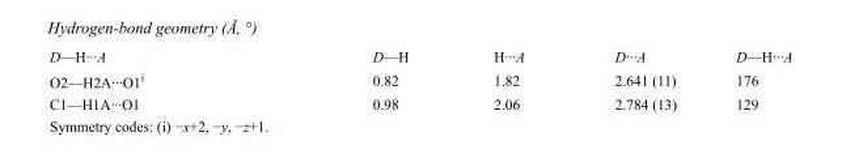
<table><tbody><tr><td>D—H···A</td><td>D—H</td><td>H···A</td><td>D···A</td><td>D—H···A</td></tr><tr><td>O2—H2A···O1<sup>i</sup></td><td>0.82</td><td>1.82</td><td>2.641 (11)</td><td>176</td></tr><tr><td>C1—H1A···O1</td><td>0.98</td><td>2.06</td><td>2.784 (13)</td><td>129</td></tr></tbody></table>